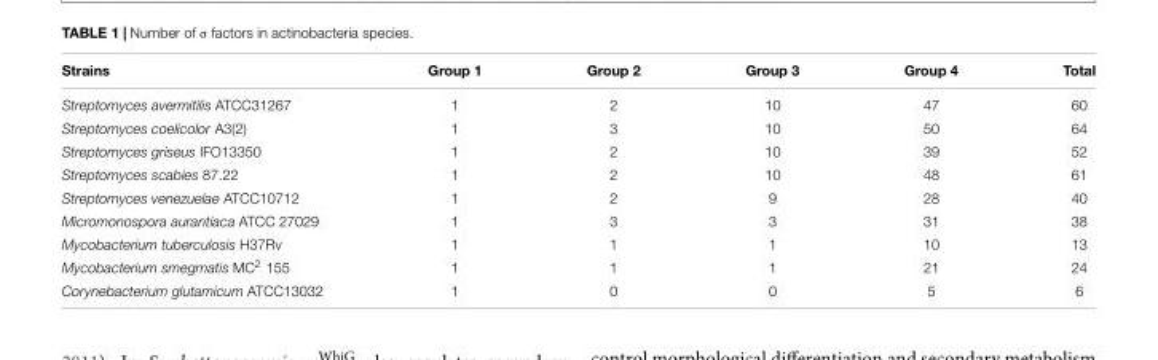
<table><thead><tr><td>Strains</td><td>Group 1</td><td>Group 2</td><td>Group 3</td><td>Group 4</td><td>Total</td></tr></thead><tbody><tr><td>Streptomyces avermitilis ATCC31267</td><td>1</td><td>2</td><td>10</td><td>47</td><td>60</td></tr><tr><td>Streptomyces coelicolor A3(2)</td><td>1</td><td>3</td><td>10</td><td>50</td><td>64</td></tr><tr><td>Streptomyces griseus IFO13350</td><td>1</td><td>2</td><td>10</td><td>39</td><td>52</td></tr><tr><td>Streptomyces scabies 87.22</td><td>1</td><td>2</td><td>10</td><td>48</td><td>61</td></tr><tr><td>Streptomyces venezuelae ATCC10712</td><td>1</td><td>2</td><td>9</td><td>28</td><td>40</td></tr><tr><td>Micromonospora aurantiaca ATCC 27029</td><td>1</td><td>3</td><td>3</td><td>31</td><td>38</td></tr><tr><td>Mycobacterium tuberculosis H37Rv</td><td>1</td><td>1</td><td>1</td><td>10</td><td>13</td></tr><tr><td>Mycobacterium smegmatis MC<sup>2</sup> 155</td><td>1</td><td>1</td><td>1</td><td>21</td><td>24</td></tr><tr><td>Corynebacterium glutamicum ATCC13032</td><td>1</td><td>0</td><td>0</td><td>5</td><td>6</td></tr></tbody></table>